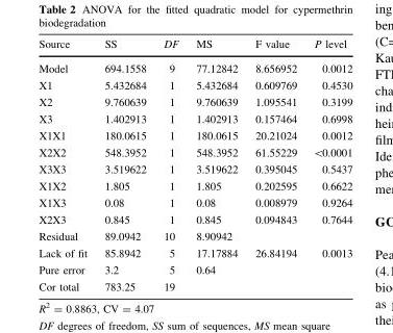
<table><thead><tr><td>Source</td><td>SS</td><td>DF</td><td>MS</td><td>F value</td><td>P level</td></tr></thead><tbody><tr><td>Model</td><td>694.1558</td><td>9</td><td>77.12842</td><td>8.656952</td><td>0.0012</td></tr><tr><td>X1</td><td>5.432684</td><td>1</td><td>5.432684</td><td>0.609769</td><td>0.4530</td></tr><tr><td>X2</td><td>9.760639</td><td>1</td><td>9.760639</td><td>1.095541</td><td>0.3199</td></tr><tr><td>X3</td><td>1.402913</td><td>1</td><td>1.402913</td><td>0.157464</td><td>0.6998</td></tr><tr><td>X1X1</td><td>180.0615</td><td>1</td><td>180.0615</td><td>20.21024</td><td>0.0012</td></tr><tr><td>X2X2</td><td>548.3952</td><td>1</td><td>548.3952</td><td>61.55229</td><td>&lt;0.0001</td></tr><tr><td>X3X3</td><td>3.519622</td><td>1</td><td>3.519622</td><td>0.395045</td><td>0.5437</td></tr><tr><td>X1X2</td><td>1.805</td><td>1</td><td>1.805</td><td>0.202595</td><td>0.6622</td></tr><tr><td>X1X3</td><td>0.08</td><td>1</td><td>0.08</td><td>0.008979</td><td>0.9264</td></tr><tr><td>X2X3</td><td>0.845</td><td>1</td><td>0.845</td><td>0.094843</td><td>0.7644</td></tr><tr><td>Residual</td><td>89.0942</td><td>10</td><td>8.90942</td><td></td><td></td></tr><tr><td>Lack of fit</td><td>85.8942</td><td>5</td><td>17.17884</td><td>26.84194</td><td>0.0013</td></tr><tr><td>Pure error</td><td>3.2</td><td>5</td><td>0.64</td><td></td><td></td></tr><tr><td>Cor total</td><td>783.25</td><td>19</td><td></td><td></td><td></td></tr></tbody></table>